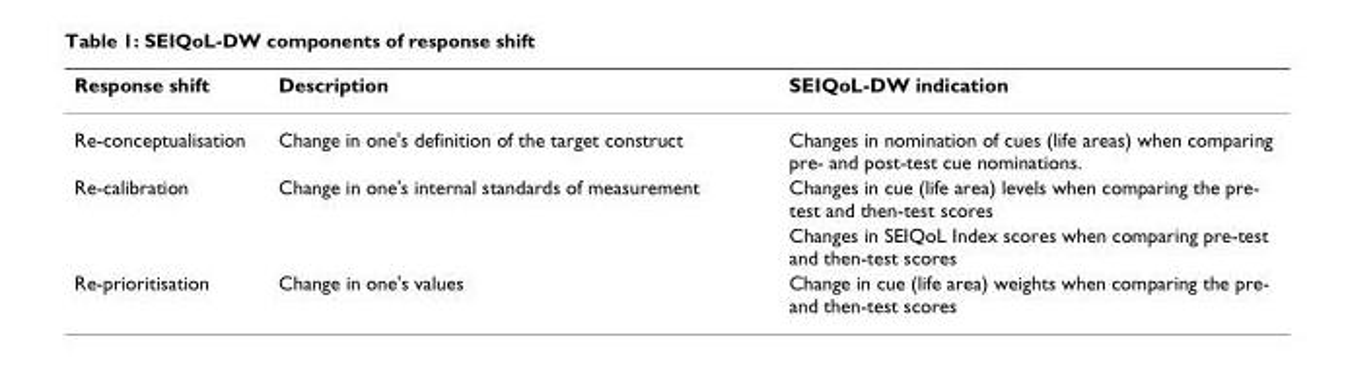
<table><thead><tr><td>Response shift</td><td>Description</td><td>SEIQoL-DW indication</td></tr></thead><tbody><tr><td>Re-conceptualisation</td><td>Change in one&#x27;s definition of the target construct</td><td>Changes in nomination of cues (life areas) when comparing pre- and post-test cue nominations.</td></tr><tr><td rowspan="2">Re-calibration</td><td>Change in one&#x27;s internal standards of measurement</td><td>Changes in cue (life area) levels when comparing the pre- test and then-test scores</td></tr><tr><td></td><td>Changes in SEIQoL Index scores when comparing pre-test and then-test scores</td></tr><tr><td>Re-prioritisation</td><td>Change in one&#x27;s values</td><td>Change in cue (life area) weights when comparing the pre- and then-test scores</td></tr></tbody></table>